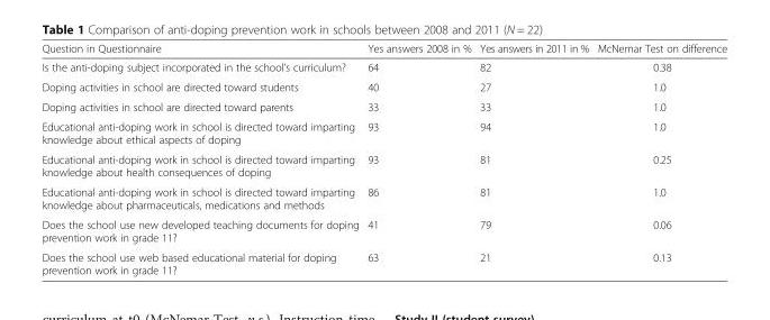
<table><thead><tr><td>Question in Questionnaire</td><td>Yes answers 2008 in %</td><td>Yes answers in 2011 in %</td><td>McNemar Test on difference</td></tr></thead><tbody><tr><td>Is the anti-doping subject incorporated in the school’s curriculum?</td><td>64</td><td>82</td><td>0.38</td></tr><tr><td>Doping activities in school are directed toward students</td><td>40</td><td>27</td><td>1.0</td></tr><tr><td>Doping activities in school are directed toward parents</td><td>33</td><td>33</td><td>1.0</td></tr><tr><td>Educational anti-doping work in school is directed toward imparting knowledge about ethical aspects of doping</td><td>93</td><td>94</td><td>1.0</td></tr><tr><td>Educational anti-doping work in school is directed toward imparting knowledge about health consequences of doping</td><td>93</td><td>81</td><td>0.25</td></tr><tr><td>Educational anti-doping work in school is directed toward imparting knowledge about pharmaceuticals, medications and methods</td><td>86</td><td>81</td><td>1.0</td></tr><tr><td>Does the school use new developed teaching documents for doping prevention work in grade 11?</td><td>41</td><td>79</td><td>0.06</td></tr><tr><td>Does the school use web based educational material for doping prevention work in grade 11?</td><td>63</td><td>21</td><td>0.13</td></tr></tbody></table>